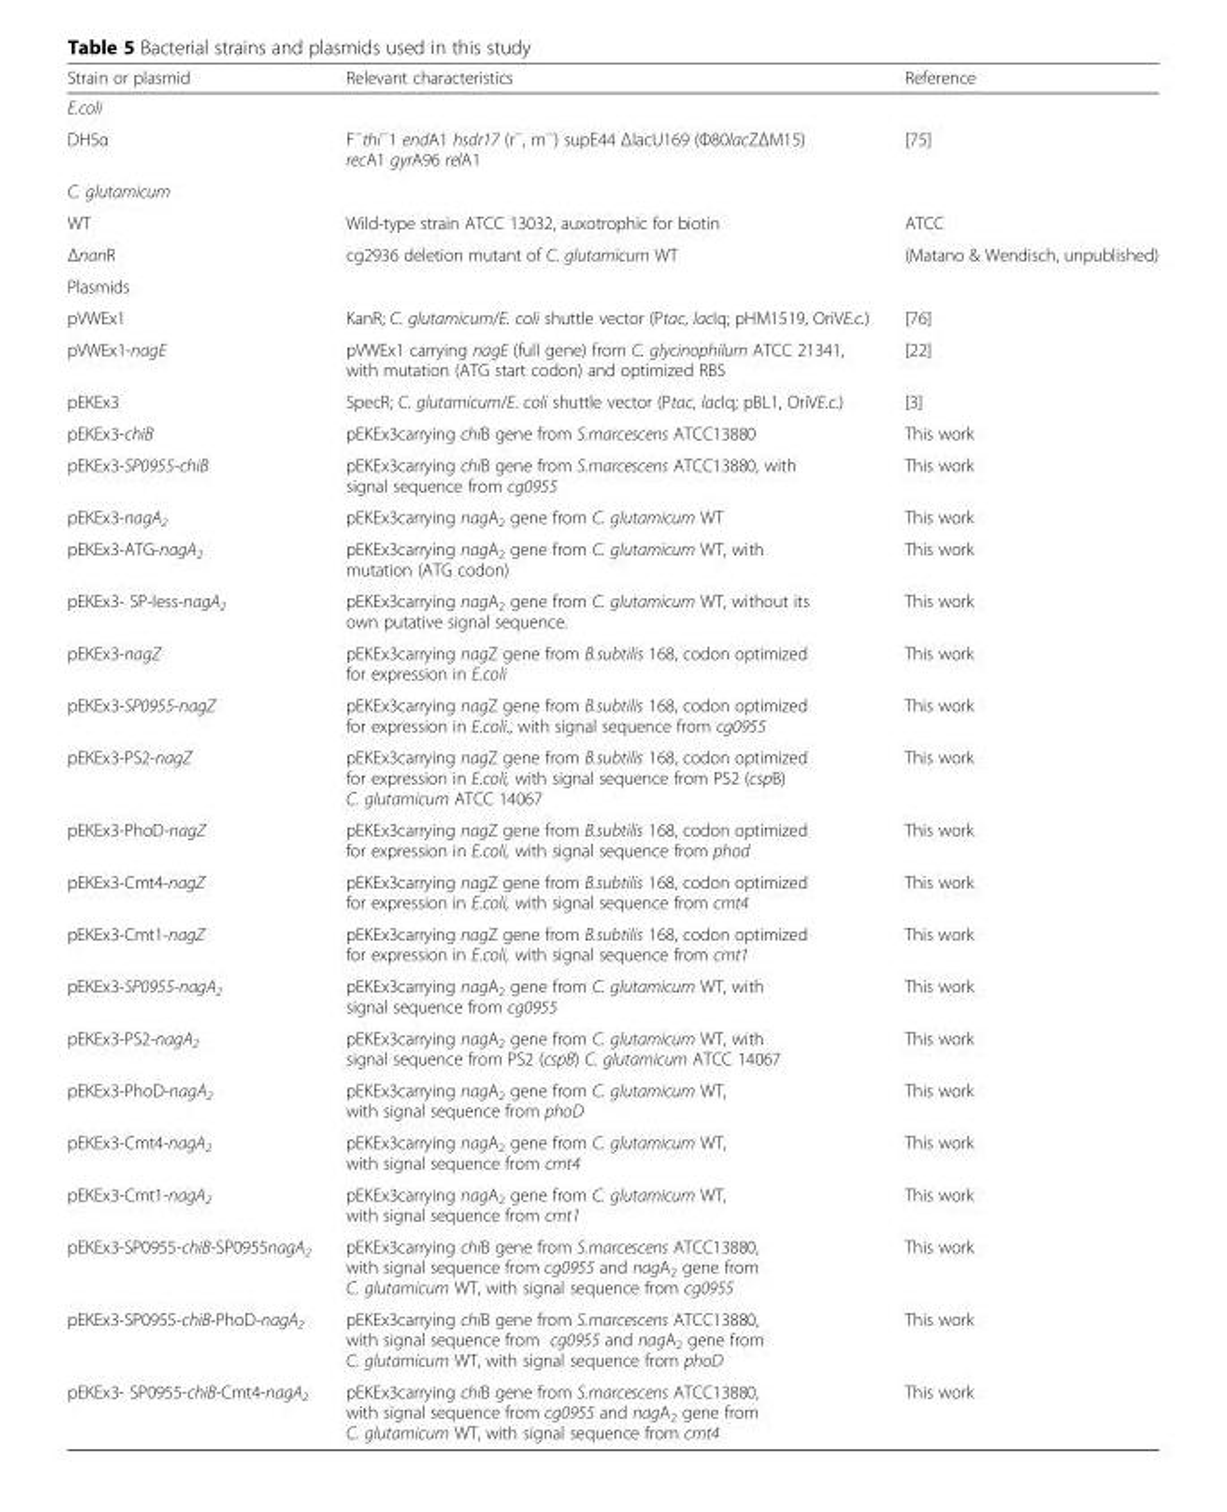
<table><thead><tr><td>Strain or plasmid</td><td>Relevant characteristics</td><td>Reference</td></tr></thead><tbody><tr><td colspan="3">E.coli</td></tr><tr><td>DH5α</td><td>F<sup>−</sup>thi<sup>−</sup>1 endA1 hsdr17 (r<sup>−</sup>, m<sup>−</sup>) supE44 ΔlacU169 (Φ80lacZΔM15) recA1 gyrA96 relA1</td><td>[75]</td></tr><tr><td colspan="3">C. glutamicum</td></tr><tr><td>WT</td><td>Wild-type strain ATCC 13032, auxotrophic for biotin</td><td>ATCC</td></tr><tr><td>ΔnanR</td><td>cg2936 deletion mutant of C. glutamicum WT</td><td>(Matano &amp; Wendisch, unpublished)</td></tr><tr><td colspan="3">Plasmids</td></tr><tr><td>pVWEx1</td><td>KanR; C. glutamicum/E. coli shuttle vector (Ptac, lacIq; pHM1519, OriVE.c.)</td><td>[76]</td></tr><tr><td>pVWEx1-nagE</td><td>pVWEx1 carrying nagE (full gene) from C. glycinophilum ATCC 21341, with mutation (ATG start codon) and optimized RBS</td><td>[22]</td></tr><tr><td>pEKEx3</td><td>SpecR; C. glutamicum/E. coli shuttle vector (Ptac, lacIq; pBL1, OriVE.c.)</td><td>[3]</td></tr><tr><td>pEKEx3-chiB</td><td>pEKEx3carrying chiB gene from S.marcescens ATCC13880</td><td>This work</td></tr><tr><td>pEKEx3-SP0955-chiB</td><td>pEKEx3carrying chiB gene from S.marcescens ATCC13880, with signal sequence from cg0955</td><td>This work</td></tr><tr><td>pEKEx3-nagA<sub>2</sub></td><td>pEKEx3carrying nagA<sub>2</sub> gene from C. glutamicum WT</td><td>This work</td></tr><tr><td>pEKEx3-ATG-nagA<sub>2</sub></td><td>pEKEx3carrying nagA<sub>2</sub> gene from C. glutamicum WT, with mutation (ATG codon)</td><td>This work</td></tr><tr><td>pEKEx3- SP-less-nagA<sub>2</sub></td><td>pEKEx3carrying nagA<sub>2</sub> gene from C. glutamicum WT, without its own putative signal sequence.</td><td>This work</td></tr><tr><td>pEKEx3-nagZ</td><td>pEKEx3carrying nagZ gene from B.subtilis 168, codon optimized for expression in E.coli</td><td>This work</td></tr><tr><td>pEKEx3-SP0955-nagZ</td><td>pEKEx3carrying nagZ gene from B.subtilis 168, codon optimized for expression in E.coli., with signal sequence from cg0955</td><td>This work</td></tr><tr><td>pEKEx3-PS2-nagZ</td><td>pEKEx3carrying nagZ gene from B.subtilis 168, codon optimized for expression in E.coli, with signal sequence from PS2 (cspB) C. glutamicum ATCC 14067</td><td>This work</td></tr><tr><td>pEKEx3-PhoD-nagZ</td><td>pEKEx3carrying nagZ gene from B.subtilis 168, codon optimized for expression in E.coli, with signal sequence from phod</td><td>This work</td></tr><tr><td>pEKEx3-Cmt4-nagZ</td><td>pEKEx3carrying nagZ gene from B.subtilis 168, codon optimized for expression in E.coli, with signal sequence from cmt4</td><td>This work</td></tr><tr><td>pEKEx3-Cmt1-nagZ</td><td>pEKEx3carrying nagZ gene from B.subtilis 168, codon optimized for expression in E.coli, with signal sequence from cmt1</td><td>This work</td></tr><tr><td>pEKEx3-SP0955-nagA<sub>2</sub></td><td>pEKEx3carrying nagA<sub>2</sub> gene from C. glutamicum WT, with signal sequence from cg0955</td><td>This work</td></tr><tr><td>pEKEx3-PS2-nagA<sub>2</sub></td><td>pEKEx3carrying nagA<sub>2</sub> gene from C. glutamicum WT, with signal sequence from PS2 (cspB) C. glutamicum ATCC 14067</td><td>This work</td></tr><tr><td>pEKEx3-PhoD-nagA<sub>2</sub></td><td>pEKEx3carrying nagA<sub>2</sub> gene from C. glutamicum WT, with signal sequence from phoD</td><td>This work</td></tr><tr><td>pEKEx3-Cmt4-nagA<sub>2</sub></td><td>pEKEx3carrying nagA<sub>2</sub> gene from C. glutamicum WT, with signal sequence from cmt4</td><td>This work</td></tr><tr><td>pEKEx3-Cmt1-nagA<sub>2</sub></td><td>pEKEx3carrying nagA<sub>2</sub> gene from C. glutamicum WT, with signal sequence from cmt1</td><td>This work</td></tr><tr><td>pEKEx3-SP0955-chiB-SP0955nagA<sub>2</sub></td><td>pEKEx3carrying chiB gene from S.marcescens ATCC13880, with signal sequence from cg0955 and nagA<sub>2</sub> gene from C. glutamicum WT, with signal sequence from cg0955</td><td>This work</td></tr><tr><td>pEKEx3-SP0955-chiB-PhoD-nagA<sub>2</sub></td><td>pEKEx3carrying chiB gene from S.marcescens ATCC13880, with signal sequence from cg0955 and nagA<sub>2</sub> gene from C. glutamicum WT, with signal sequence from phoD</td><td>This work</td></tr><tr><td>pEKEx3- SP0955-chiB-Cmt4-nagA<sub>2</sub></td><td>pEKEx3carrying chiB gene from S.marcescens ATCC13880, with signal sequence from cg0955 and nagA<sub>2</sub> gene from C. glutamicum WT, with signal sequence from cmt4</td><td>This work</td></tr></tbody></table>